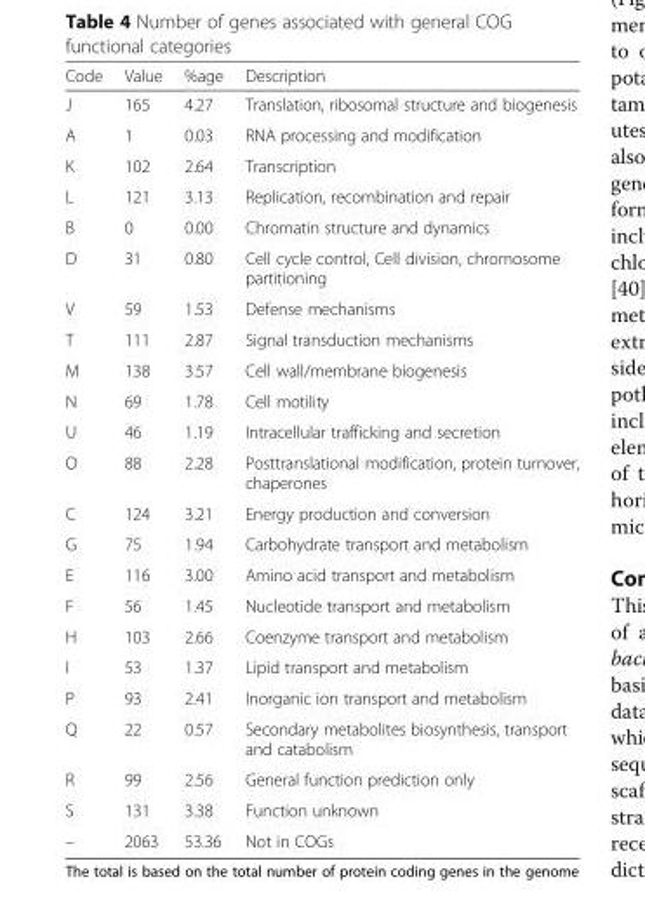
<table><thead><tr><td>Code</td><td>Value</td><td>%age</td><td>Description</td></tr></thead><tbody><tr><td>J</td><td>165</td><td>4.27</td><td>Translation, ribosomal structure and biogenesis</td></tr><tr><td>A</td><td>1</td><td>0.03</td><td>RNA processing and modification</td></tr><tr><td>K</td><td>102</td><td>2.64</td><td>Transcription</td></tr><tr><td>L</td><td>121</td><td>3.13</td><td>Replication, recombination and repair</td></tr><tr><td>B</td><td>0</td><td>0.00</td><td>Chromatin structure and dynamics</td></tr><tr><td>D</td><td>31</td><td>0.80</td><td>Cell cycle control, Cell division, chromosome partitioning</td></tr><tr><td>V</td><td>59</td><td>1.53</td><td>Defense mechanisms</td></tr><tr><td>T</td><td>111</td><td>2.87</td><td>Signal transduction mechanisms</td></tr><tr><td>M</td><td>138</td><td>3.57</td><td>Cell wall/membrane biogenesis</td></tr><tr><td>N</td><td>69</td><td>1.78</td><td>Cell motility</td></tr><tr><td>U</td><td>46</td><td>1.19</td><td>Intracellular trafficking and secretion</td></tr><tr><td>O</td><td>88</td><td>2.28</td><td>Posttranslational modification, protein turnover, chaperones</td></tr><tr><td>C</td><td>124</td><td>3.21</td><td>Energy production and conversion</td></tr><tr><td>G</td><td>75</td><td>1.94</td><td>Carbohydrate transport and metabolism</td></tr><tr><td>E</td><td>116</td><td>3.00</td><td>Amino acid transport and metabolism</td></tr><tr><td>F</td><td>56</td><td>1.45</td><td>Nucleotide transport and metabolism</td></tr><tr><td>H</td><td>103</td><td>2.66</td><td>Coenzyme transport and metabolism</td></tr><tr><td>I</td><td>53</td><td>1.37</td><td>Lipid transport and metabolism</td></tr><tr><td>P</td><td>93</td><td>2.41</td><td>Inorganic ion transport and metabolism</td></tr><tr><td>Q</td><td>22</td><td>0.57</td><td>Secondary metabolites biosynthesis, transport and catabolism</td></tr><tr><td>R</td><td>99</td><td>2.56</td><td>General function prediction only</td></tr><tr><td>S</td><td>131</td><td>3.38</td><td>Function unknown</td></tr><tr><td>–</td><td>2063</td><td>53.36</td><td>Not in COGs</td></tr></tbody></table>